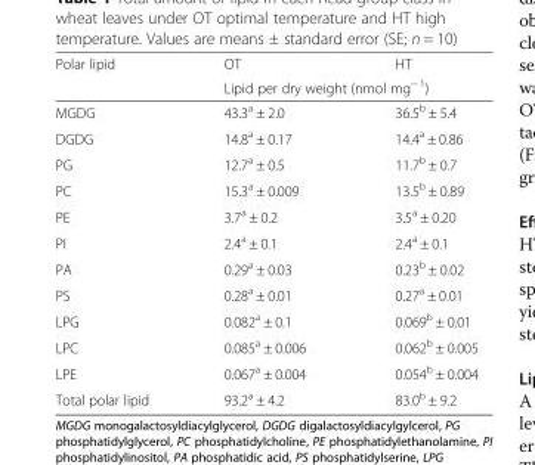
<table><thead><tr><td rowspan="2">Polar lipid</td><td>OT</td><td>HT</td></tr><tr><td colspan="2">Lipid per dry weight (nmol mg<sup>− 1</sup>)</td></tr></thead><tbody><tr><td>MGDG</td><td>43.3<sup>a</sup> ± 2.0</td><td>36.5<sup>b</sup> ± 5.4</td></tr><tr><td>DGDG</td><td>14.8<sup>a</sup> ± 0.17</td><td>14.4<sup>a</sup> ± 0.86</td></tr><tr><td>PG</td><td>12.7<sup>a</sup> ± 0.5</td><td>11.7<sup>b</sup> ± 0.7</td></tr><tr><td>PC</td><td>15.3<sup>a</sup> ± 0.009</td><td>13.5<sup>b</sup> ± 0.89</td></tr><tr><td>PE</td><td>3.7<sup>a</sup> ± 0.2</td><td>3.5<sup>a</sup> ± 0.20</td></tr><tr><td>PI</td><td>2.4<sup>a</sup> ± 0.1</td><td>2.4<sup>a</sup> ± 0.1</td></tr><tr><td>PA</td><td>0.29<sup>a</sup> ± 0.03</td><td>0.23<sup>b</sup> ± 0.02</td></tr><tr><td>PS</td><td>0.28<sup>a</sup> ± 0.01</td><td>0.27<sup>a</sup> ± 0.01</td></tr><tr><td>LPG</td><td>0.082<sup>a</sup> ± 0.1</td><td>0.069<sup>b</sup> ± 0.01</td></tr><tr><td>LPC</td><td>0.085<sup>a</sup> ± 0.006</td><td>0.062<sup>b</sup> ± 0.005</td></tr><tr><td>LPE</td><td>0.067<sup>a</sup> ± 0.004</td><td>0.054<sup>b</sup> ± 0.004</td></tr><tr><td>Total polar lipid</td><td>93.2<sup>a</sup> ± 4.2</td><td>83.0<sup>b</sup> ± 9.2</td></tr></tbody></table>